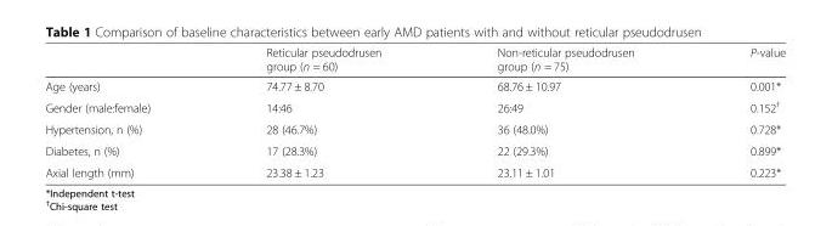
<table><thead><tr><td></td><td>Reticular pseudodrusen group (n = 60)</td><td>Non-reticular pseudodrusen group (n = 75)</td><td>P-value</td></tr></thead><tbody><tr><td>Age (years)</td><td>74.77 ± 8.70</td><td>68.76 ± 10.97</td><td>0.001*</td></tr><tr><td>Gender (male:female)</td><td>14:46</td><td>26:49</td><td>0.152<sup>†</sup></td></tr><tr><td>Hypertension, n (%)</td><td>28 (46.7%)</td><td>36 (48.0%)</td><td>0.728*</td></tr><tr><td>Diabetes, n (%)</td><td>17 (28.3%)</td><td>22 (29.3%)</td><td>0.899*</td></tr><tr><td>Axial length (mm)</td><td>23.38 ± 1.23</td><td>23.11 ± 1.01</td><td>0.223*</td></tr></tbody></table>